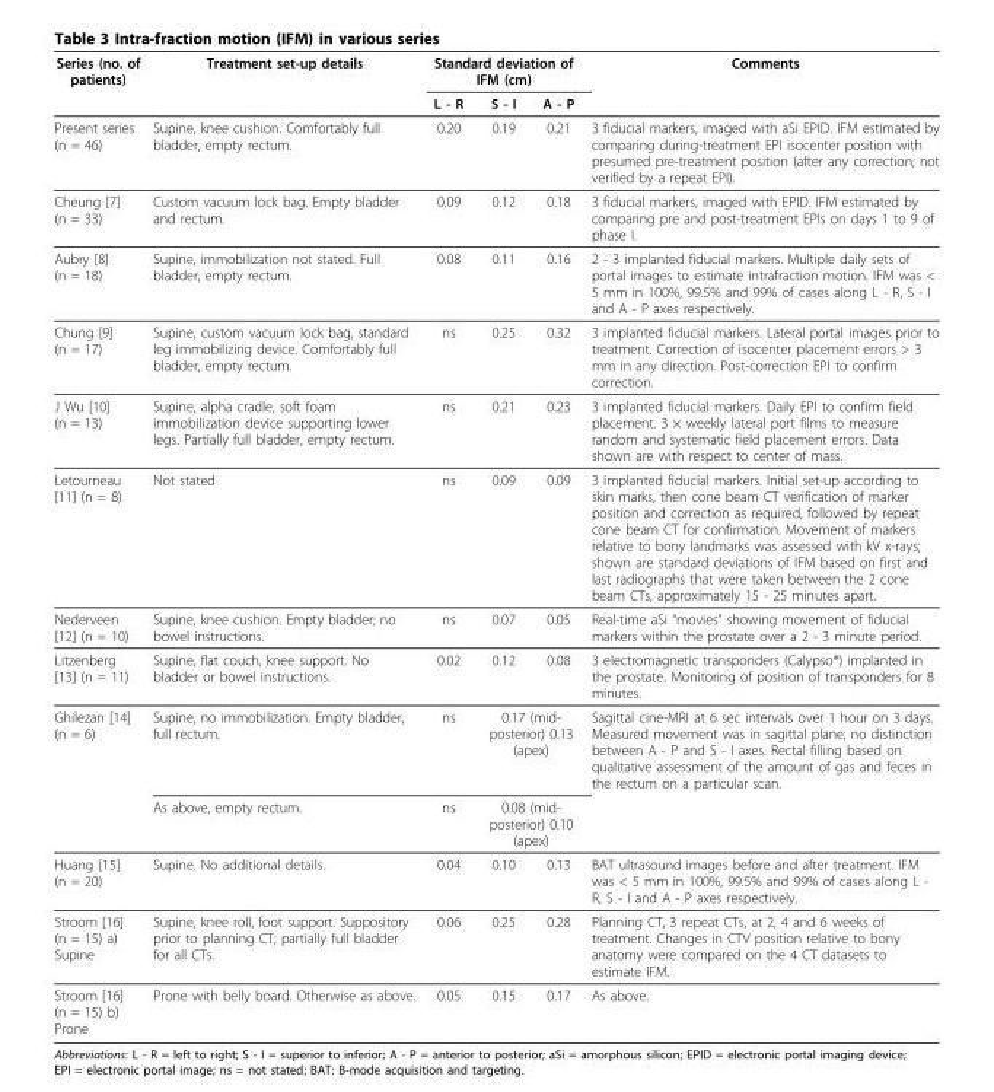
<table><thead><tr><td rowspan="2">Series (no. of patients)</td><td rowspan="2">Treatment set-up details</td><td colspan="3">Standard deviation of IFM (cm)</td><td rowspan="2">Comments</td></tr><tr><td>L - R</td><td>S - I</td><td>A - P</td></tr></thead><tbody><tr><td>Present series (n = 46)</td><td>Supine, knee cushion. Comfortably full bladder, empty rectum.</td><td>0.20</td><td>0.19</td><td>0.21</td><td>3 fiducial markers, imaged with aSi EPID. IFM estimated by comparing during-treatment EPI isocenter position with presumed pre-treatment position (after any correction; not verified by a repeat EPI).</td></tr><tr><td>Cheung [7] (n = 33)</td><td>Custom vacuum lock bag. Empty bladder and rectum.</td><td>0.09</td><td>0.12</td><td>0.18</td><td>3 fiducial markers, imaged with EPID. IFM estimated by comparing pre and post-treatment EPIs on days 1 to 9 of phase I.</td></tr><tr><td>Aubry [8] (n = 18)</td><td>Supine, immobilization not stated. Full bladder, empty rectum.</td><td>0.08</td><td>0.11</td><td>0.16</td><td>2 - 3 implanted fiducial markers. Multiple daily sets of portal images to estimate intrafraction motion. IFM was &lt; 5 mm in 100%, 99.5% and 99% of cases along L - R, S - I and A - P axes respectively.</td></tr><tr><td>Chung [9] (n = 17)</td><td>Supine, custom vacuum lock bag, standard leg immobilizing device. Comfortably full bladder, empty rectum.</td><td>ns</td><td>0.25</td><td>0.32</td><td>3 implanted fiducial markers. Lateral portal images prior to treatment. Correction of isocenter placement errors &gt; 3 mm in any direction. Post-correction EPI to confirm correction.</td></tr><tr><td>J Wu [10] (n = 13)</td><td>Supine, alpha cradle, soft foam immobilization device supporting lower legs. Partially full bladder, empty rectum.</td><td>ns</td><td>0.21</td><td>0.23</td><td>3 implanted fiducial markers. Daily EPI to confirm field placement. 3 × weekly lateral port films to measure random and systematic field placement errors. Data shown are with respect to center of mass.</td></tr><tr><td>Letourneau [11] (n = 8)</td><td>Not stated</td><td>ns</td><td>0.09</td><td>0.09</td><td>3 implanted fiducial markers. Initial set-up according to skin marks, then cone beam CT verification of marker position and correction as required, followed by repeat cone beam CT for confirmation. Movement of markers relative to bony landmarks was assessed with kV x-rays; shown are standard deviations of IFM based on first and last radiographs that were taken between the 2 cone beam CTs, approximately 15 - 25 minutes apart.</td></tr><tr><td>Nederveen [12] (n = 10)</td><td>Supine, knee cushion. Empty bladder; no bowel instructions.</td><td>ns</td><td>0.07</td><td>0.05</td><td>Real-time aSi “movies” showing movement of fiducial markers within the prostate over a 2 - 3 minute period.</td></tr><tr><td>Litzenberg [13] (n = 11)</td><td>Supine, flat couch, knee support. No bladder or bowel instructions.</td><td>0.02</td><td>0.12</td><td>0.08</td><td>3 electromagnetic transponders (Calypso<sup>®</sup>) implanted in the prostate. Monitoring of position of transponders for 8 minutes.</td></tr><tr><td rowspan="2">Ghilezan [14] (n = 6)</td><td>Supine, no immobilization. Empty bladder, full rectum.</td><td>ns</td><td colspan="2">0.17 (mid- posterior) 0.13 (apex)</td><td>Sagittal cine-MRI at 6 sec intervals over 1 hour on 3 days. Measured movement was in sagittal plane; no distinction between A - P and S - I axes. Rectal filling based on qualitative assessment of the amount of gas and feces in the rectum on a particular scan.</td></tr><tr><td>As above, empty rectum.</td><td>ns</td><td colspan="2">0.08 (mid- posterior) 0.10 (apex)</td><td></td></tr><tr><td>Huang [15] (n = 20)</td><td>Supine. No additional details.</td><td>0.04</td><td>0.10</td><td>0.13</td><td>BAT ultrasound images before and after treatment. IFM was &lt; 5 mm in 100%, 99.5% and 99% of cases along L - R, S - I and A - P axes respectively.</td></tr><tr><td>Stroom [16] (n = 15) a) Supine</td><td>Supine, knee roll, foot support. Suppository prior to planning CT; partially full bladder for all CTs.</td><td>0.06</td><td>0.25</td><td>0.28</td><td>Planning CT, 3 repeat CTs, at 2, 4 and 6 weeks of treatment. Changes in CTV position relative to bony anatomy were compared on the 4 CT datasets to estimate IFM.</td></tr><tr><td>Stroom [16] (n = 15) b) Prone</td><td>Prone with belly board. Otherwise as above.</td><td>0.05</td><td>0.15</td><td>0.17</td><td>As above.</td></tr></tbody></table>